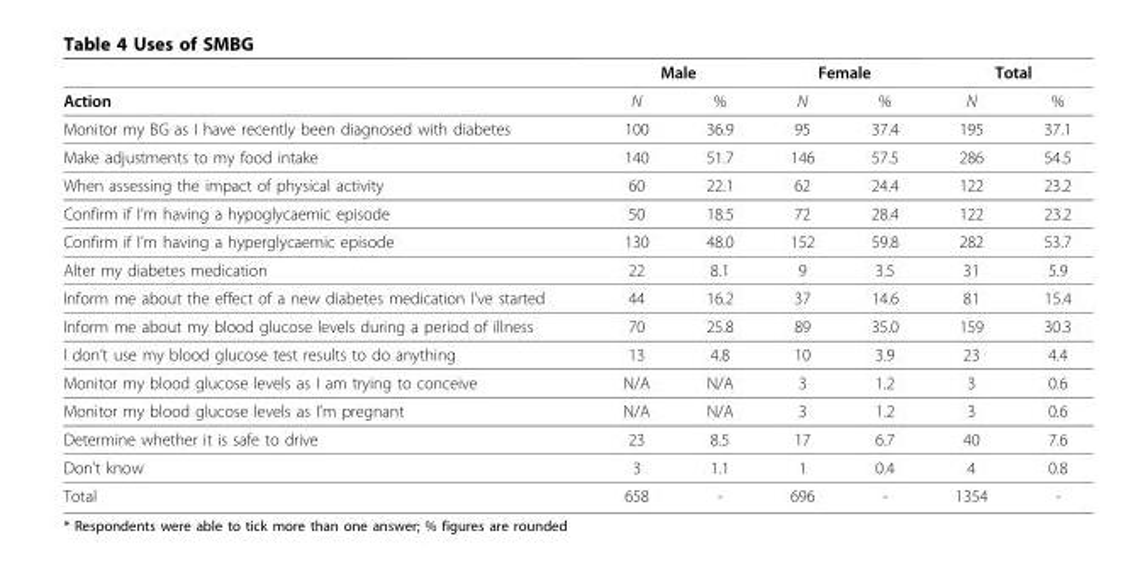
<table><thead><tr><td rowspan="2">Action</td><td colspan="2">Male</td><td colspan="2">Female</td><td colspan="2">Total</td></tr><tr><td>N</td><td>%</td><td>N</td><td>%</td><td>N</td><td>%</td></tr></thead><tbody><tr><td>Monitor my BG as I have recently been diagnosed with diabetes</td><td>100</td><td>36.9</td><td>95</td><td>37.4</td><td>195</td><td>37.1</td></tr><tr><td>Make adjustments to my food intake</td><td>140</td><td>51.7</td><td>146</td><td>57.5</td><td>286</td><td>54.5</td></tr><tr><td>When assessing the impact of physical activity</td><td>60</td><td>22.1</td><td>62</td><td>24.4</td><td>122</td><td>23.2</td></tr><tr><td>Confirm if I’m having a hypoglycaemic episode</td><td>50</td><td>18.5</td><td>72</td><td>28.4</td><td>122</td><td>23.2</td></tr><tr><td>Confirm if I’m having a hyperglycaemic episode</td><td>130</td><td>48.0</td><td>152</td><td>59.8</td><td>282</td><td>53.7</td></tr><tr><td>Alter my diabetes medication</td><td>22</td><td>8.1</td><td>9</td><td>3.5</td><td>31</td><td>5.9</td></tr><tr><td>Inform me about the effect of a new diabetes medication I’ve started</td><td>44</td><td>16.2</td><td>37</td><td>14.6</td><td>81</td><td>15.4</td></tr><tr><td>Inform me about my blood glucose levels during a period of illness</td><td>70</td><td>25.8</td><td>89</td><td>35.0</td><td>159</td><td>30.3</td></tr><tr><td>I don’t use my blood glucose test results to do anything</td><td>13</td><td>4.8</td><td>10</td><td>3.9</td><td>23</td><td>4.4</td></tr><tr><td>Monitor my blood glucose levels as I am trying to conceive</td><td>N/A</td><td>N/A</td><td>3</td><td>1.2</td><td>3</td><td>0.6</td></tr><tr><td>Monitor my blood glucose levels as I’m pregnant</td><td>N/A</td><td>N/A</td><td>3</td><td>1.2</td><td>3</td><td>0.6</td></tr><tr><td>Determine whether it is safe to drive</td><td>23</td><td>8.5</td><td>17</td><td>6.7</td><td>40</td><td>7.6</td></tr><tr><td>Don’t know</td><td>3</td><td>1.1</td><td>1</td><td>0.4</td><td>4</td><td>0.8</td></tr><tr><td>Total</td><td>658</td><td>-</td><td>696</td><td>-</td><td>1354</td><td>-</td></tr></tbody></table>